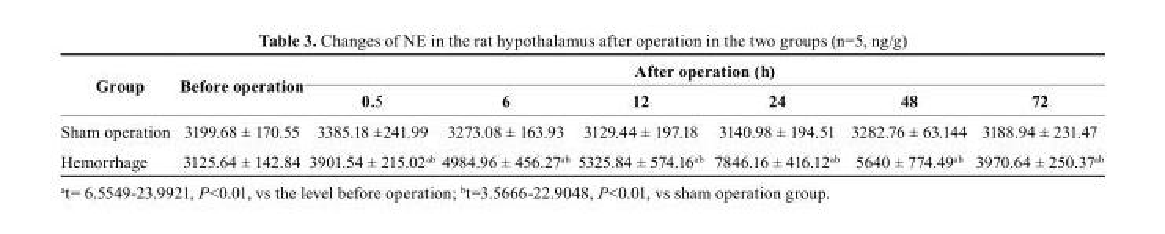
<table><thead><tr><td rowspan="2">Group</td><td rowspan="2">before operation</td><td colspan="6">After operation (h)</td></tr><tr><td>0.5</td><td>6</td><td>12</td><td>24</td><td>48</td><td>72</td></tr></thead><tbody><tr><td>Sham operation</td><td>3199.68 ± 170.55</td><td>3385.18 ±241.99</td><td>3273.08 ± 163.93</td><td>3129.44 ± 197.18</td><td>3140.98 ± 194.51</td><td>3282.76 ± 63.144</td><td>3188.94 ± 231.47</td></tr><tr><td>Hemorrhage</td><td>3125.64 ± 142.84</td><td>3901.54 ± 215.02<sup>ab</sup></td><td>4984.96 ± 456.27<sup>ab</sup></td><td>5325.84 ± 574.16<sup>ab</sup></td><td>7846.16 ± 416.12<sup>ab</sup></td><td>5640 ± 774.49<sup>ab</sup></td><td>3970.64 ± 250.37<sup>ab</sup></td></tr></tbody></table>